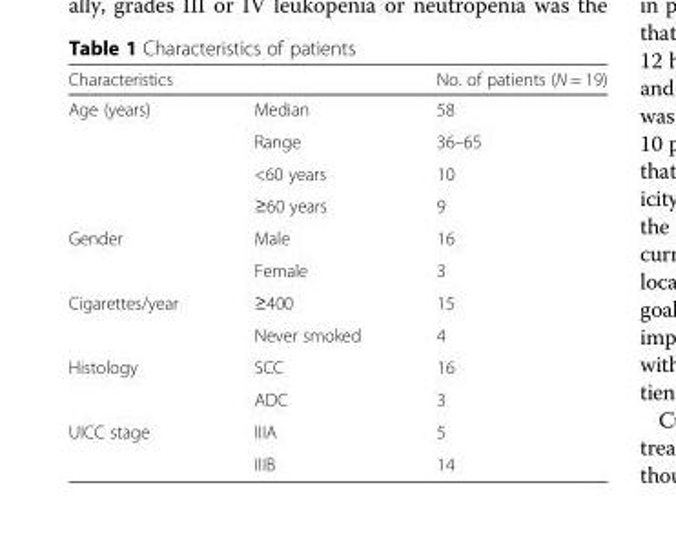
<table><thead><tr><td colspan="2">Characteristics</td><td rowspan="2">No. of patients (N = 19) 58</td></tr><tr><td>Age (years)</td><td>Median</td></tr></thead><tbody><tr><td></td><td>Range</td><td>36–65</td></tr><tr><td></td><td>&lt;60 years</td><td>10</td></tr><tr><td></td><td>≥60 years</td><td>9</td></tr><tr><td rowspan="2">Gender</td><td>Male</td><td>16</td></tr><tr><td>Female</td><td>3</td></tr><tr><td rowspan="2">Cigarettes/year</td><td>≥400</td><td>15</td></tr><tr><td>Never smoked</td><td>4</td></tr><tr><td rowspan="2">Histology</td><td>SCC</td><td>16</td></tr><tr><td>ADC</td><td>3</td></tr><tr><td rowspan="2">UICC stage</td><td>IIIA</td><td>5</td></tr><tr><td>IIIB</td><td>14</td></tr></tbody></table>